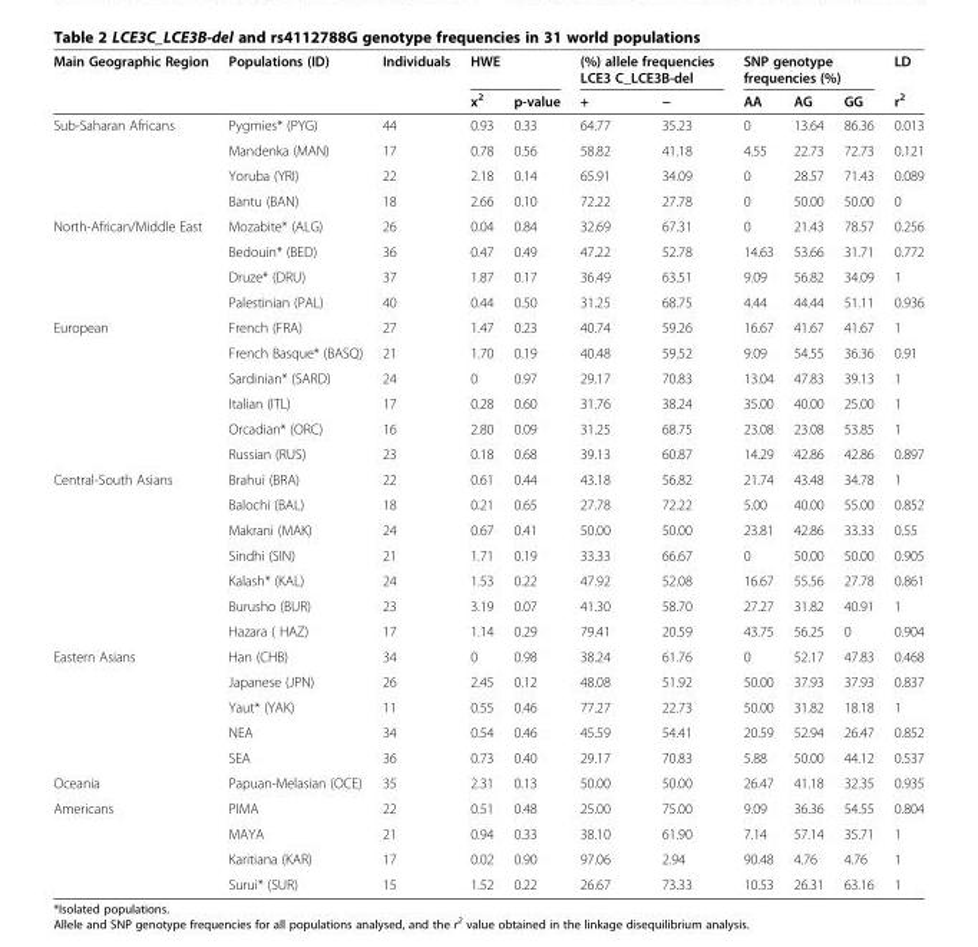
<table><thead><tr><td rowspan="2">Main Geographic Region</td><td rowspan="2">Populations (ID)</td><td rowspan="2">Individuals</td><td colspan="2">HWE</td><td colspan="2">(%) allele frequencies LCE3 C_LCE3B-del</td><td colspan="3">SNP genotype frequencies (%)</td><td rowspan="2">LD r<sup>2</sup></td></tr><tr><td>x<sup>2</sup></td><td>p-value</td><td>+</td><td>−</td><td>AA</td><td>AG</td><td>GG</td></tr></thead><tbody><tr><td rowspan="4">Sub-Saharan Africans</td><td>Pygmies* (PYG)</td><td>44</td><td>0.93</td><td>0.33</td><td>64.77</td><td>35.23</td><td>0</td><td>13.64</td><td>86.36</td><td>0.013</td></tr><tr><td>Mandenka (MAN)</td><td>17</td><td>0.78</td><td>0.56</td><td>58.82</td><td>41.18</td><td>4.55</td><td>22.73</td><td>72.73</td><td>0.121</td></tr><tr><td>Yoruba (YRI)</td><td>22</td><td>2.18</td><td>0.14</td><td>65.91</td><td>34.09</td><td>0</td><td>28.57</td><td>71.43</td><td>0.089</td></tr><tr><td>Bantu (BAN)</td><td>18</td><td>2.66</td><td>0.10</td><td>72.22</td><td>27.78</td><td>0</td><td>50.00</td><td>50.00</td><td>0</td></tr><tr><td rowspan="4">North-African/Middle East</td><td>Mozabite* (ALG)</td><td>26</td><td>0.04</td><td>0.84</td><td>32.69</td><td>67.31</td><td>0</td><td>21.43</td><td>78.57</td><td>0.256</td></tr><tr><td>Bedouin* (BED)</td><td>36</td><td>0.47</td><td>0.49</td><td>47.22</td><td>52.78</td><td>14.63</td><td>53.66</td><td>31.71</td><td>0.772</td></tr><tr><td>Druze* (DRU)</td><td>37</td><td>1.87</td><td>0.17</td><td>36.49</td><td>63.51</td><td>9.09</td><td>56.82</td><td>34.09</td><td>1</td></tr><tr><td>Palestinian (PAL)</td><td>40</td><td>0.44</td><td>0.50</td><td>31.25</td><td>68.75</td><td>4.44</td><td>44.44</td><td>51.11</td><td>0.936</td></tr><tr><td rowspan="6">European</td><td>French (FRA)</td><td>27</td><td>1.47</td><td>0.23</td><td>40.74</td><td>59.26</td><td>16.67</td><td>41.67</td><td>41.67</td><td>1</td></tr><tr><td>French Basque* (BASQ)</td><td>21</td><td>1.70</td><td>0.19</td><td>40.48</td><td>59.52</td><td>9.09</td><td>54.55</td><td>36.36</td><td>0.91</td></tr><tr><td>Sardinian* (SARD)</td><td>24</td><td>0</td><td>0.97</td><td>29.17</td><td>70.83</td><td>13.04</td><td>47.83</td><td>39.13</td><td>1</td></tr><tr><td>Italian (ITL)</td><td>17</td><td>0.28</td><td>0.60</td><td>31.76</td><td>38.24</td><td>35.00</td><td>40.00</td><td>25.00</td><td>1</td></tr><tr><td>Orcadian* (ORC)</td><td>16</td><td>2.80</td><td>0.09</td><td>31.25</td><td>68.75</td><td>23.08</td><td>23.08</td><td>53.85</td><td>1</td></tr><tr><td>Russian (RUS)</td><td>23</td><td>0.18</td><td>0.68</td><td>39.13</td><td>60.87</td><td>14.29</td><td>42.86</td><td>42.86</td><td>0.897</td></tr><tr><td rowspan="7">Central-South Asians</td><td>Brahui (BRA)</td><td>22</td><td>0.61</td><td>0.44</td><td>43.18</td><td>56.82</td><td>21.74</td><td>43.48</td><td>34.78</td><td>1</td></tr><tr><td>Balochi (BAL)</td><td>18</td><td>0.21</td><td>0.65</td><td>27.78</td><td>72.22</td><td>5.00</td><td>40.00</td><td>55.00</td><td>0.852</td></tr><tr><td>Makrani (MAK)</td><td>24</td><td>0.67</td><td>0.41</td><td>50.00</td><td>50.00</td><td>23.81</td><td>42.86</td><td>33.33</td><td>0.55</td></tr><tr><td>Sindhi (SIN)</td><td>21</td><td>1.71</td><td>0.19</td><td>33.33</td><td>66.67</td><td>0</td><td>50.00</td><td>50.00</td><td>0.905</td></tr><tr><td>Kalash* (KAL)</td><td>24</td><td>1.53</td><td>0.22</td><td>47.92</td><td>52.08</td><td>16.67</td><td>55.56</td><td>27.78</td><td>0.861</td></tr><tr><td>Burusho (BUR)</td><td>23</td><td>3.19</td><td>0.07</td><td>41.30</td><td>58.70</td><td>27.27</td><td>31.82</td><td>40.91</td><td>1</td></tr><tr><td>Hazara ( HAZ)</td><td>17</td><td>1.14</td><td>0.29</td><td>79.41</td><td>20.59</td><td>43.75</td><td>56.25</td><td>0</td><td>0.904</td></tr><tr><td rowspan="5">Eastern Asians</td><td>Han (CHB)</td><td>34</td><td>0</td><td>0.98</td><td>38.24</td><td>61.76</td><td>0</td><td>52.17</td><td>47.83</td><td>0.468</td></tr><tr><td>Japanese (JPN)</td><td>26</td><td>2.45</td><td>0.12</td><td>48.08</td><td>51.92</td><td>50.00</td><td>37.93</td><td>37.93</td><td>0.837</td></tr><tr><td>Yaut* (YAK)</td><td>11</td><td>0.55</td><td>0.46</td><td>77.27</td><td>22.73</td><td>50.00</td><td>31.82</td><td>18.18</td><td>1</td></tr><tr><td>NEA</td><td>34</td><td>0.54</td><td>0.46</td><td>45.59</td><td>54.41</td><td>20.59</td><td>52.94</td><td>26.47</td><td>0.852</td></tr><tr><td>SEA</td><td>36</td><td>0.73</td><td>0.40</td><td>29.17</td><td>70.83</td><td>5.88</td><td>50.00</td><td>44.12</td><td>0.537</td></tr><tr><td>Oceania</td><td>Papuan-Melasian (OCE)</td><td>35</td><td>2.31</td><td>0.13</td><td>50.00</td><td>50.00</td><td>26.47</td><td>41.18</td><td>32.35</td><td>0.935</td></tr><tr><td rowspan="4">Americans</td><td>PIMA</td><td>22</td><td>0.51</td><td>0.48</td><td>25.00</td><td>75.00</td><td>9.09</td><td>36.36</td><td>54.55</td><td>0.804</td></tr><tr><td>MAYA</td><td>21</td><td>0.94</td><td>0.33</td><td>38.10</td><td>61.90</td><td>7.14</td><td>57.14</td><td>35.71</td><td>1</td></tr><tr><td>Karitiana (KAR)</td><td>17</td><td>0.02</td><td>0.90</td><td>97.06</td><td>2.94</td><td>90.48</td><td>4.76</td><td>4.76</td><td>1</td></tr><tr><td>Surui* (SUR)</td><td>15</td><td>1.52</td><td>0.22</td><td>26.67</td><td>73.33</td><td>10.53</td><td>26.31</td><td>63.16</td><td>1</td></tr></tbody></table>